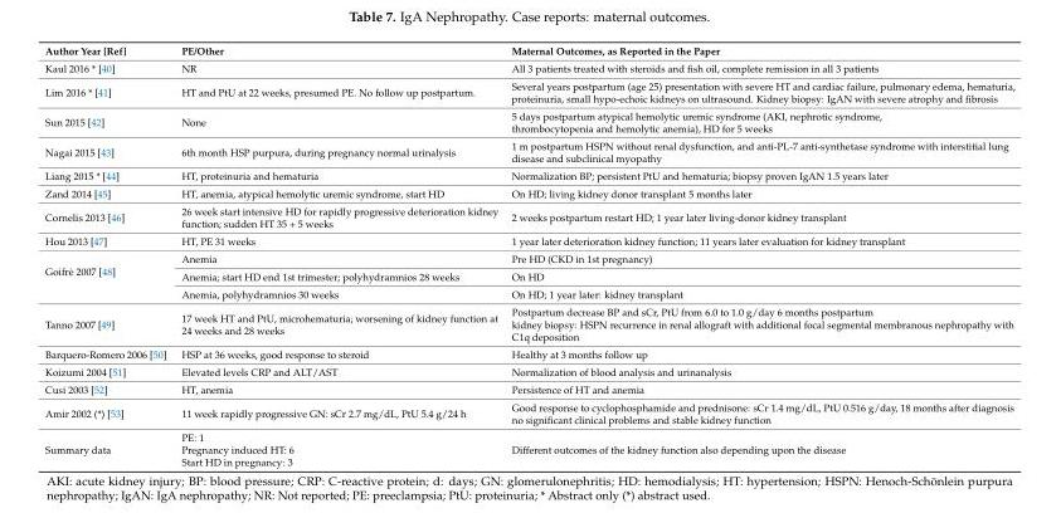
<table><thead><tr><td>Author Year [Ref]</td><td>PE/Other</td><td>Maternal Outcomes, as Reported in the Paper</td></tr></thead><tbody><tr><td>Kaul 2016 * [40]</td><td>NR</td><td>All 3 patients treated with steroids and fish oil, complete remission in all 3 patients</td></tr><tr><td>Lim 2016 * [41]</td><td>HT and PtU at 22 weeks, presumed PE. No follow up postpartum.</td><td>Several years postpartum (age 25) presentation with severe HT and cardiac failure, pulmonary edema, hematuria, proteinuria, small hypo-echoic kidneys on ultrasound. Kidney biopsy: IgAN with severe atrophy and fibrosis</td></tr><tr><td>Sun 2015 [42]</td><td>None</td><td>5 days postpartum atypical hemolytic uremic syndrome (AKI, nephrotic syndrome, thrombocytopenia and hemolytic anemia), HD for 5 weeks</td></tr><tr><td>Nagai 2015 [43]</td><td>6th month HSP purpura, during pregnancy normal urinalysis</td><td>1 m postpartum HSPN without renal dysfunction, and anti-PL-7 anti-synthetase syndrome with interstitial lung disease and subclinical myopathy</td></tr><tr><td>Liang 2015 * [44]</td><td>HT, proteinuria and hematuria</td><td>Normalization BP; persistent PtU and hematuria; biopsy proven IgAN 1.5 years later</td></tr><tr><td>Zand 2014 [45]</td><td>HT, anemia, atypical hemolytic uremic syndrome, start HD</td><td>On HD; living kidney donor transplant 5 months later</td></tr><tr><td>Cornelis 2013 [46]</td><td>26 week start intensive HD for rapidly progressive deterioration kidney function; sudden HT 35 + 5 weeks</td><td>2 weeks postpartum restart HD; 1 year later living-donor kidney transplant</td></tr><tr><td>Hou 2013 [47]</td><td>HT, PE 31 weeks</td><td>1 year later deterioration kidney function; 11 years later evaluation for kidney transplant</td></tr><tr><td rowspan="3">Goifrè 2007 [48]</td><td>Anemia</td><td>Pre HD (CKD in 1st pregnancy)</td></tr><tr><td>Anemia; start HD end 1st trimester; polyhydramnios 28 weeks</td><td>On HD</td></tr><tr><td>Anemia, polyhydramnios 30 weeks</td><td>On HD; 1 year later: kidney transplant</td></tr><tr><td>Tanno 2007 [49]</td><td>17 week HT and PtU, microhematuria; worsening of kidney function at 24 weeks and 28 weeks</td><td>Postpartum decrease BP and sCr, PtU from 6.0 to 1.0 g/day 6 months postpartum kidney biopsy: HSPN recurrence in renal allograft with additional focal segmental membranous nephropathy with C1q deposition</td></tr><tr><td>Barquero-Romero 2006 [50]</td><td>HSP at 36 weeks, good response to steroid</td><td>Healthy at 3 months follow up</td></tr><tr><td>Koizumi 2004 [51]</td><td>Elevated levels CRP and ALT/AST</td><td>Normalization of blood analysis and urinanalysis</td></tr><tr><td>Cusi 2003 [52]</td><td>HT, anemia</td><td>Persistence of HT and anemia</td></tr><tr><td>Amir 2002 (*) [53]</td><td>11 week rapidly progressive GN: sCr 2.7 mg/dL, PtU 5.4 g/24 h</td><td>Good response to cyclophosphamide and prednisone: sCr 1.4 mg/dL, PtU 0.516 g/day, 18 months after diagnosis no significant clinical problems and stable kidney function</td></tr><tr><td>Summary data</td><td>PE: 1 Pregnancy induced HT: 6 Start HD in pregnancy: 3</td><td>Different outcomes of the kidney function also depending upon the disease</td></tr></tbody></table>